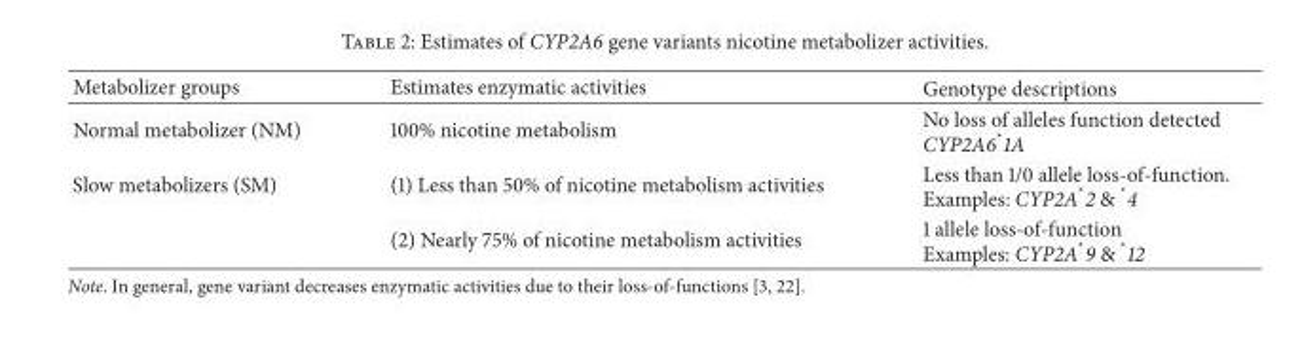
<table><thead><tr><td>Metabolizer groups</td><td>Estimates enzymatic activities</td><td>Genotype descriptions</td></tr></thead><tbody><tr><td>Normal metabolizer (NM)</td><td>100% nicotine metabolism</td><td>No loss of alleles function detected CYP2A6*1A</td></tr><tr><td rowspan="2">Slow metabolizers (SM)</td><td>(1) Less than 50% of nicotine metabolism activities</td><td>Less than 1/0 allele loss-of-function. Examples: CYP2A*2 &amp; *4</td></tr><tr><td>(2) Nearly 75% of nicotine metabolism activities</td><td>1 allele loss-of-function Examples: CYP2A*9 &amp; *12</td></tr></tbody></table>